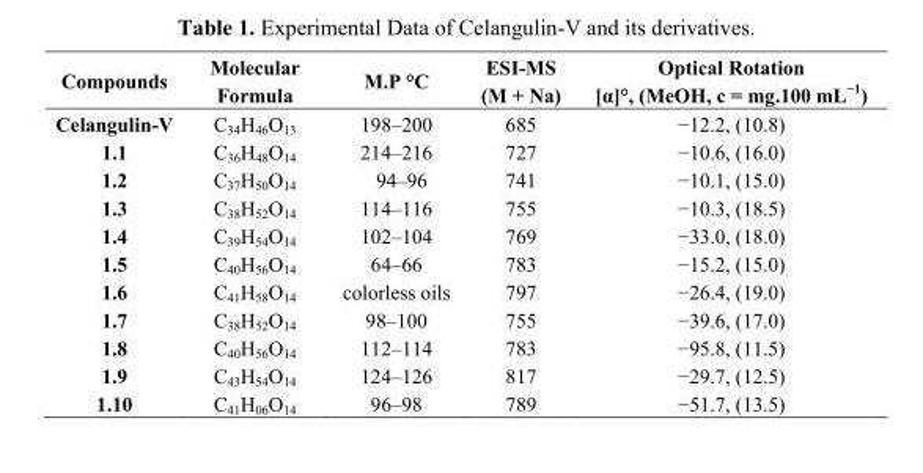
<table><thead><tr><td>Compounds</td><td>Molecular Formula</td><td>M.P °C</td><td>ESI-MS (M + Na)</td><td>Optical Rotation [α]°, (MeOH, c = mg.100 mL<sup>−1</sup>)</td></tr></thead><tbody><tr><td>Celangulin-V</td><td>C<sub>34</sub>H<sub>46</sub>O<sub>13</sub></td><td>198–200</td><td>685</td><td>−12.2, (10.8)</td></tr><tr><td>1.1</td><td>C<sub>36</sub>H<sub>48</sub>O<sub>14</sub></td><td>214–216</td><td>727</td><td>−10.6, (16.0)</td></tr><tr><td>1.2</td><td>C<sub>37</sub>H<sub>50</sub>O<sub>14</sub></td><td>94–96</td><td>741</td><td>−10.1, (15.0)</td></tr><tr><td>1.3</td><td>C<sub>38</sub>H<sub>52</sub>O<sub>14</sub></td><td>114–116</td><td>755</td><td>−10.3, (18.5)</td></tr><tr><td>1.4</td><td>C<sub>39</sub>H<sub>54</sub>O<sub>14</sub></td><td>102–104</td><td>769</td><td>−33.0, (18.0)</td></tr><tr><td>1.5</td><td>C<sub>40</sub>H<sub>56</sub>O<sub>14</sub></td><td>64–66</td><td>783</td><td>−15.2, (15.0)</td></tr><tr><td>1.6</td><td>C<sub>41</sub>H<sub>58</sub>O<sub>14</sub></td><td>colorless oils</td><td>797</td><td>−26.4, (19.0)</td></tr><tr><td>1.7</td><td>C<sub>38</sub>H<sub>52</sub>O<sub>14</sub></td><td>98–100</td><td>755</td><td>−39.6, (17.0)</td></tr><tr><td>1.8</td><td>C<sub>40</sub>H<sub>56</sub>O<sub>14</sub></td><td>112–114</td><td>783</td><td>−95.8, (11.5)</td></tr><tr><td>1.9</td><td>C<sub>43</sub>H<sub>54</sub>O<sub>14</sub></td><td>124–126</td><td>817</td><td>−29.7, (12.5)</td></tr><tr><td>1.10</td><td>C<sub>41</sub>H<sub>06</sub>O<sub>14</sub></td><td>96–98</td><td>789</td><td>−51.7, (13.5)</td></tr></tbody></table>